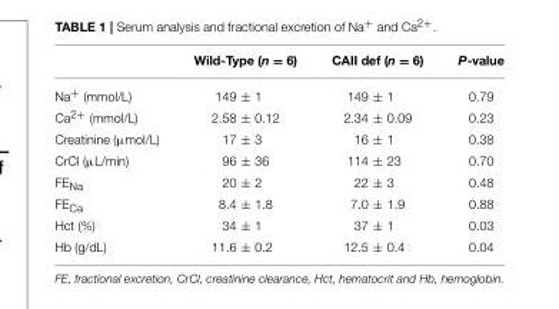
<table><thead><tr><td></td><td>Wild-Type (n = 6)</td><td>CAII def (n = 6)</td><td>P-value</td></tr></thead><tbody><tr><td>Na<sup>+</sup> (mmol/L)</td><td>149 ± 1</td><td>149 ± 1</td><td>0.79</td></tr><tr><td>Ca<sup>2+</sup> (mmol/L)</td><td>2.58 ± 0.12</td><td>2.34 ± 0.09</td><td>0.23</td></tr><tr><td>Creatinine (µmol/L)</td><td>17 ± 3</td><td>16 ± 1</td><td>0.38</td></tr><tr><td>CrCl (µL/min)</td><td>96 ± 36</td><td>114 ± 23</td><td>0.70</td></tr><tr><td>FE<sub>Na</sub></td><td>20 ± 2</td><td>22 ± 3</td><td>0.48</td></tr><tr><td>FE<sub>Ca</sub></td><td>8.4 ± 1.8</td><td>7.0 ± 1.9</td><td>0.88</td></tr><tr><td>Hct (%)</td><td>34 ± 1</td><td>37 ± 1</td><td>0.03</td></tr><tr><td>Hb (g/dL)</td><td>11.6 ± 0.2</td><td>12.5 ± 0.4</td><td>0.04</td></tr></tbody></table>